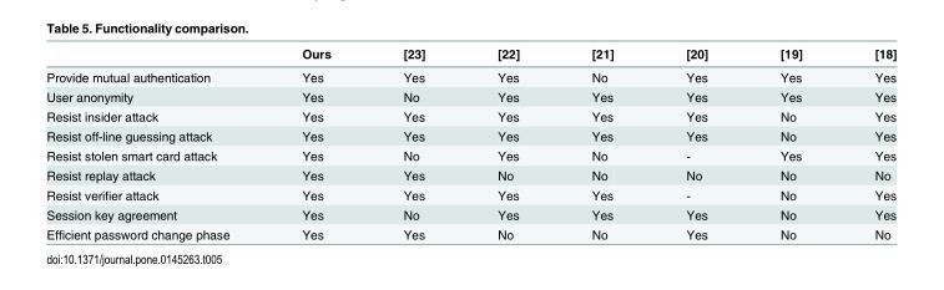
<table><thead><tr><td></td><td>Ours</td><td>[23]</td><td>[22]</td><td>[21]</td><td>[20]</td><td>[19]</td><td>[18]</td></tr></thead><tbody><tr><td>Provide mutual authentication</td><td>Yes</td><td>Yes</td><td>Yes</td><td>No</td><td>Yes</td><td>Yes</td><td>Yes</td></tr><tr><td>User anonymity</td><td>Yes</td><td>No</td><td>Yes</td><td>Yes</td><td>Yes</td><td>Yes</td><td>Yes</td></tr><tr><td>Resist insider attack</td><td>Yes</td><td>Yes</td><td>Yes</td><td>Yes</td><td>Yes</td><td>No</td><td>Yes</td></tr><tr><td>Resist off-line guessing attack</td><td>Yes</td><td>Yes</td><td>Yes</td><td>Yes</td><td>Yes</td><td>No</td><td>Yes</td></tr><tr><td>Resist stolen smart card attack</td><td>Yes</td><td>No</td><td>Yes</td><td>No</td><td>-</td><td>Yes</td><td>Yes</td></tr><tr><td>Resist replay attack</td><td>Yes</td><td>Yes</td><td>No</td><td>No</td><td>No</td><td>No</td><td>No</td></tr><tr><td>Resist verifier attack</td><td>Yes</td><td>Yes</td><td>Yes</td><td>Yes</td><td>-</td><td>No</td><td>Yes</td></tr><tr><td>Session key agreement</td><td>Yes</td><td>No</td><td>Yes</td><td>Yes</td><td>Yes</td><td>No</td><td>Yes</td></tr><tr><td>Efficient password change phase</td><td>Yes</td><td>Yes</td><td>No</td><td>No</td><td>Yes</td><td>No</td><td>No</td></tr></tbody></table>